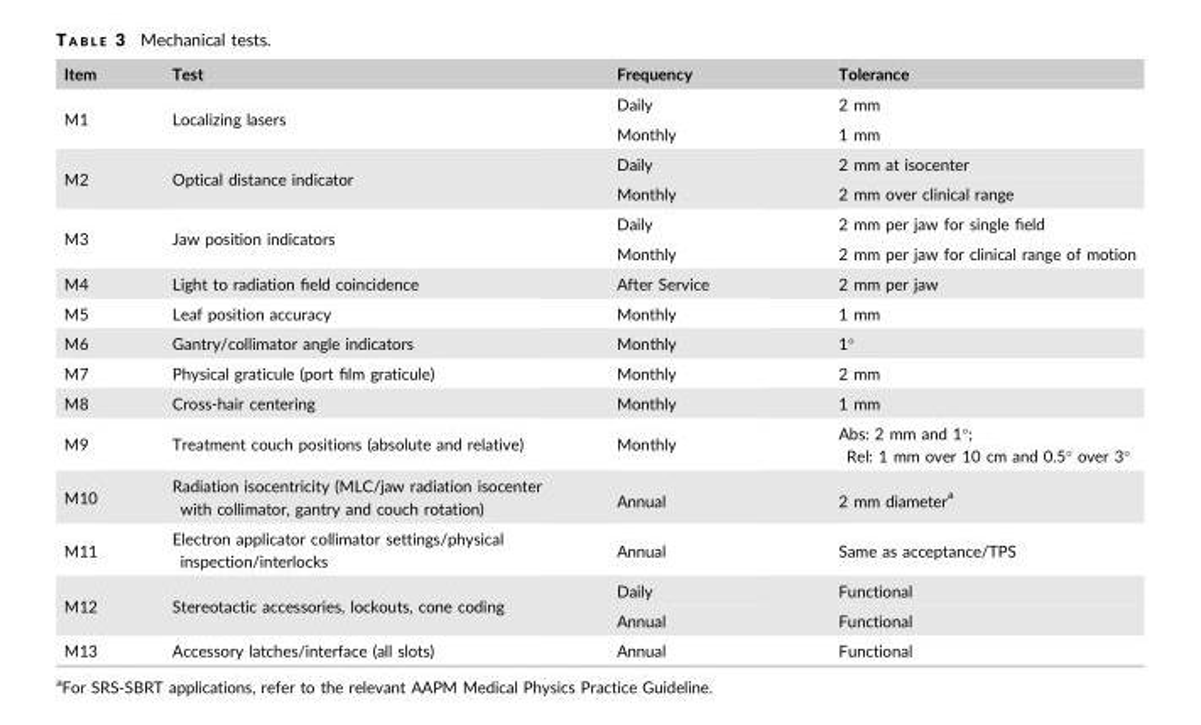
<table><thead><tr><td>Item</td><td>Test</td><td>Frequency</td><td>Tolerance</td></tr></thead><tbody><tr><td rowspan="2">M1</td><td rowspan="2">Localizing lasers</td><td>Daily</td><td>2 mm</td></tr><tr><td>Monthly</td><td>1 mm</td></tr><tr><td rowspan="2">M2</td><td rowspan="2">Optical distance indicator</td><td>Daily</td><td>2 mm at isocenter</td></tr><tr><td>Monthly</td><td>2 mm over clinical range</td></tr><tr><td rowspan="2">M3</td><td rowspan="2">Jaw position indicators</td><td>Daily</td><td>2 mm per jaw for single field</td></tr><tr><td>Monthly</td><td>2 mm per jaw for clinical range of motion</td></tr><tr><td>M4</td><td>Light to radiation field coincidence</td><td>After Service</td><td>2 mm per jaw</td></tr><tr><td>M5</td><td>Leaf position accuracy</td><td>Monthly</td><td>1 mm</td></tr><tr><td>M6</td><td>Gantry/collimator angle indicators</td><td>Monthly</td><td>1°</td></tr><tr><td>M7</td><td>Physical graticule (port film graticule)</td><td>Monthly</td><td>2 mm</td></tr><tr><td>M8</td><td>Cross-hair centering</td><td>Monthly</td><td>1 mm</td></tr><tr><td>M9</td><td>Treatment couch positions (absolute and relative)</td><td>Monthly</td><td>Abs: 2 mm and 1°; Rel: 1 mm over 10 cm and 0.5° over 3°</td></tr><tr><td>M10</td><td>Radiation isocentricity (MLC/jaw radiation isocenter with collimator, gantry and couch rotation)</td><td>Annual</td><td>2 mm diameter <sup>a</sup></td></tr><tr><td>M11</td><td>Electron applicator collimator settings/physical inspection/interlocks</td><td>Annual</td><td>Same as acceptance/TPS</td></tr><tr><td rowspan="2">M12</td><td rowspan="2">Stereotactic accessories, lockouts, cone coding</td><td>Daily</td><td>Functional</td></tr><tr><td>Annual</td><td>Functional</td></tr><tr><td>M13</td><td>Accessory latches/interface (all slots)</td><td>Annual</td><td>Functional</td></tr></tbody></table>